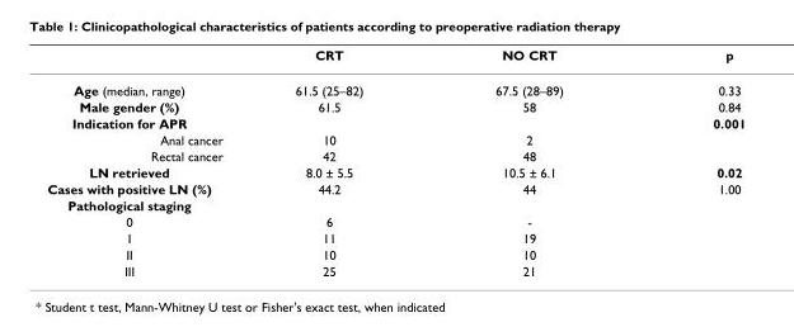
<table><thead><tr><td></td><td>CRT</td><td>NO CRT</td><td>p</td></tr></thead><tbody><tr><td>Age (median, range)</td><td>61.5 (25–82)</td><td>67.5 (28–89)</td><td>0.33</td></tr><tr><td>Male gender (%)</td><td>61.5</td><td>58</td><td>0.84</td></tr><tr><td>Indication for APR</td><td></td><td></td><td>0.001</td></tr><tr><td>Anal cancer</td><td>10</td><td>2</td><td></td></tr><tr><td>Rectal cancer</td><td>42</td><td>48</td><td></td></tr><tr><td>LN retrieved</td><td>8.0 ± 5.5</td><td>10.5 ± 6.1</td><td>0.02</td></tr><tr><td>Cases with positive LN (%)</td><td>44.2</td><td>44</td><td>1.00</td></tr><tr><td colspan="4">Pathological staging</td></tr><tr><td>0</td><td>6</td><td>-</td><td></td></tr><tr><td>I</td><td>11</td><td>19</td><td></td></tr><tr><td>II</td><td>10</td><td>10</td><td></td></tr><tr><td>III</td><td>25</td><td>21</td><td></td></tr></tbody></table>